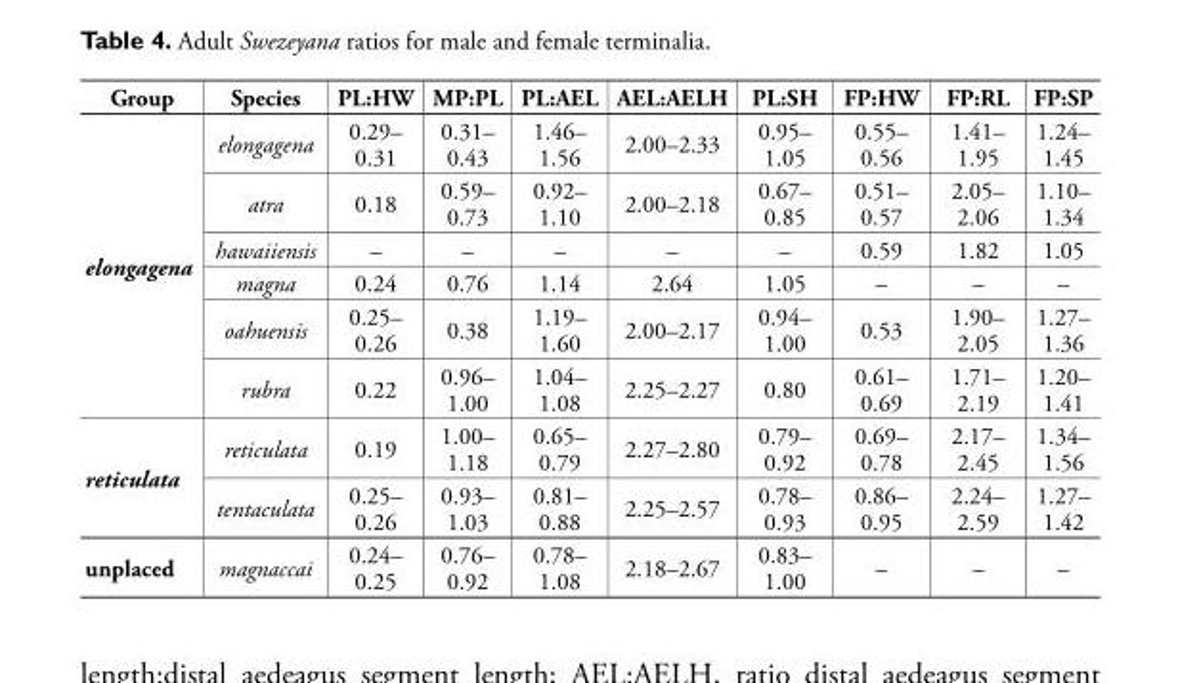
<table><thead><tr><td>Group</td><td>Species</td><td>PL:HW</td><td>MP:PL</td><td>PL:AEL</td><td>AEL:AELH</td><td>PL:SH</td><td>FP:HW</td><td>FP:RL</td><td>FP:SP</td></tr></thead><tbody><tr><td rowspan="6">elongagena</td><td>elongagena</td><td>0.29– 0.31</td><td>0.31– 0.43</td><td>1.46– 1.56</td><td>2.00–2.33</td><td>0.95– 1.05</td><td>0.55– 0.56</td><td>1.41– 1.95</td><td>1.24– 1.45</td></tr><tr><td>atra</td><td>0.18</td><td>0.59– 0.73</td><td>0.92– 1.10</td><td>2.00–2.18</td><td>0.67– 0.85</td><td>0.51– 0.57</td><td>2.05– 2.06</td><td>1.10– 1.34</td></tr><tr><td>hawaiiensis</td><td>–</td><td>–</td><td>–</td><td>–</td><td>–</td><td>0.59</td><td>1.82</td><td>1.05</td></tr><tr><td>magna</td><td>0.24</td><td>0.76</td><td>1.14</td><td>2.64</td><td>1.05</td><td>–</td><td>–</td><td>–</td></tr><tr><td>oahuensis</td><td>0.25– 0.26</td><td>0.38</td><td>1.19– 1.60</td><td>2.00–2.17</td><td>0.94– 1.00</td><td>0.53</td><td>1.90– 2.05</td><td>1.27– 1.36</td></tr><tr><td>rubra</td><td>0.22</td><td>0.96– 1.00</td><td>1.04– 1.08</td><td>2.25–2.27</td><td>0.80</td><td>0.61– 0.69</td><td>1.71– 2.19</td><td>1.20– 1.41</td></tr><tr><td rowspan="2">reticulata</td><td>reticulata</td><td>0.19</td><td>1.00– 1.18</td><td>0.65– 0.79</td><td>2.27–2.80</td><td>0.79– 0.92</td><td>0.69– 0.78</td><td>2.17– 2.45</td><td>1.34– 1.56</td></tr><tr><td>tentaculata</td><td>0.25– 0.26</td><td>0.93– 1.03</td><td>0.81– 0.88</td><td>2.25–2.57</td><td>0.78– 0.93</td><td>0.86– 0.95</td><td>2.24– 2.59</td><td>1.27– 1.42</td></tr><tr><td>unplaced</td><td>magnaccai</td><td>0.24– 0.25</td><td>0.76– 0.92</td><td>0.78– 1.08</td><td>2.18–2.67</td><td>0.83– 1.00</td><td>–</td><td>–</td><td>–</td></tr></tbody></table>